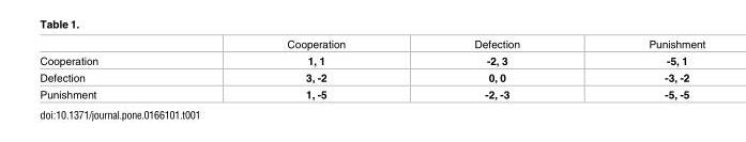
<table><thead><tr><td></td><td>Cooperation</td><td>Defection</td><td>Punishment</td></tr></thead><tbody><tr><td>Cooperation</td><td>1, 1</td><td>-2, 3</td><td>-5, 1</td></tr><tr><td>Defection</td><td>3, -2</td><td>0, 0</td><td>-3, -2</td></tr><tr><td>Punishment</td><td>1, -5</td><td>-2, -3</td><td>-5, -5</td></tr></tbody></table>